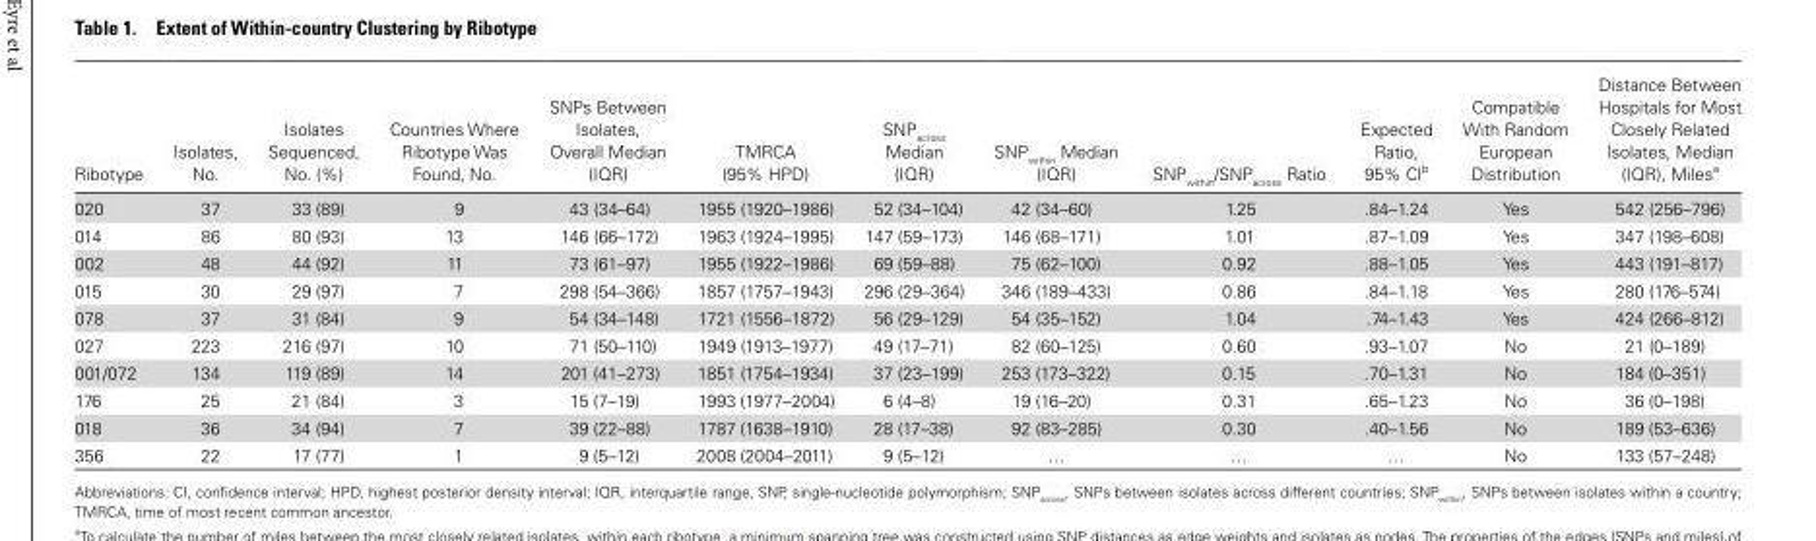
<table><thead><tr><td>Ribotype</td><td>Isolates, No.</td><td>Isolates Sequenced, No. (%)</td><td>Countries Where Ribotype Was Found, No.</td><td>SNPs Between Isolates, Overall Median (IQR)</td><td>TMRCA (95% HPD)</td><td>SNP<sub>across</sub> Median (IQR)</td><td>SNP<sub>within</sub> Median (IQR)</td><td>SNP<sub>within</sub>/SNP<sub>across</sub> Ratio</td><td>Expected Ratio, 95% CI<sup>b</sup></td><td>Compatible With Random European Distribution</td><td>Distance Between Hospitals for Most Closely Related Isolates, Median (IQR), Miles<sup>a</sup></td></tr></thead><tbody><tr><td>020</td><td>37</td><td>33 (89)</td><td>9</td><td>43 (34–64)</td><td>1955 (1920–1986)</td><td>52 (34–104)</td><td>42 (34–60)</td><td>1.25</td><td>.84–1.24</td><td>Yes</td><td>542 (256–796)</td></tr><tr><td>014</td><td>86</td><td>80 (93)</td><td>13</td><td>146 (66–172)</td><td>1963 (1924–1995)</td><td>147 (59–173)</td><td>146 (68–171)</td><td>1.01</td><td>.87–1.09</td><td>Yes</td><td>347 (198–608)</td></tr><tr><td>002</td><td>48</td><td>44 (92)</td><td>11</td><td>73 (61–97)</td><td>1955 (1922–1986)</td><td>69 (59–88)</td><td>75 (62–100)</td><td>0.92</td><td>.88–1.05</td><td>Yes</td><td>443 (191–817)</td></tr><tr><td>015</td><td>30</td><td>29 (97)</td><td>7</td><td>298 (54–366)</td><td>1857 (1757–1943)</td><td>296 (29–364)</td><td>346 (189–433)</td><td>0.86</td><td>.84–1.18</td><td>Yes</td><td>280 (176–574)</td></tr><tr><td>078</td><td>37</td><td>31 (84)</td><td>9</td><td>54 (34–148)</td><td>1721 (1556–1872)</td><td>56 (29–129)</td><td>54 (35–152)</td><td>1.04</td><td>.74–1.43</td><td>Yes</td><td>424 (266–812)</td></tr><tr><td>027</td><td>223</td><td>216 (97)</td><td>10</td><td>71 (50–110)</td><td>1949 (1913–1977)</td><td>49 (17–71)</td><td>82 (60–125)</td><td>0.60</td><td>.93–1.07</td><td>No</td><td>21 (0–189)</td></tr><tr><td>001/072</td><td>134</td><td>119 (89)</td><td>14</td><td>201 (41–273)</td><td>1851 (1754–1934)</td><td>37 (23–199)</td><td>253 (173–322)</td><td>0.15</td><td>.70–1.31</td><td>No</td><td>184 (0–351)</td></tr><tr><td>176</td><td>25</td><td>21 (84)</td><td>3</td><td>15 (7–19)</td><td>1993 (1977–2004)</td><td>6 (4–8)</td><td>19 (16–20)</td><td>0.31</td><td>.65–1.23</td><td>No</td><td>36 (0–198)</td></tr><tr><td>018</td><td>36</td><td>34 (94)</td><td>7</td><td>39 (22–88)</td><td>1787 (1638–1910)</td><td>28 (17–38)</td><td>92 (83–285)</td><td>0.30</td><td>.40–1.56</td><td>No</td><td>189 (53–636)</td></tr><tr><td>356</td><td>22</td><td>17 (77)</td><td>1</td><td>9 (5–12)</td><td>2008 (2004–2011)</td><td>9 (5–12)</td><td>…</td><td>…</td><td>…</td><td>No</td><td>133 (57–248)</td></tr></tbody></table>